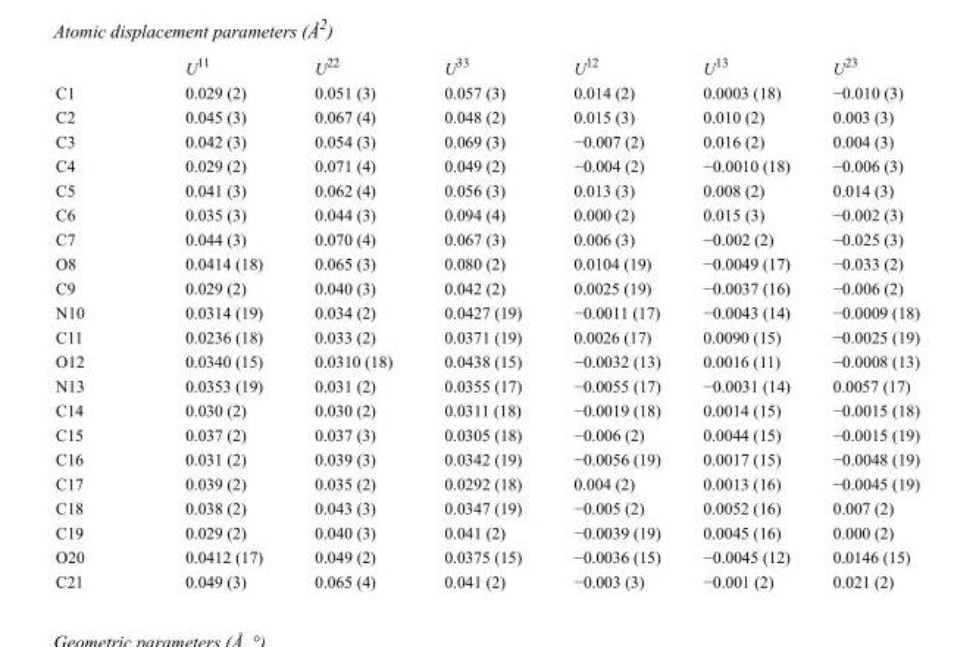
<table><thead><tr><td></td><td>U<sup>11</sup></td><td>U<sup>22</sup></td><td>U<sup>33</sup></td><td>U<sup>12</sup></td><td>U<sup>13</sup></td><td>U<sup>23</sup></td></tr></thead><tbody><tr><td>C1</td><td>0.029 (2)</td><td>0.051 (3)</td><td>0.057 (3)</td><td>0.014 (2)</td><td>0.0003 (18)</td><td>−0.010 (3)</td></tr><tr><td>C2</td><td>0.045 (3)</td><td>0.067 (4)</td><td>0.048 (2)</td><td>0.015 (3)</td><td>0.010 (2)</td><td>0.003 (3)</td></tr><tr><td>C3</td><td>0.042 (3)</td><td>0.054 (3)</td><td>0.069 (3)</td><td>−0.007 (2)</td><td>0.016 (2)</td><td>0.004 (3)</td></tr><tr><td>C4</td><td>0.029 (2)</td><td>0.071 (4)</td><td>0.049 (2)</td><td>−0.004 (2)</td><td>−0.0010 (18)</td><td>−0.006 (3)</td></tr><tr><td>C5</td><td>0.041 (3)</td><td>0.062 (4)</td><td>0.056 (3)</td><td>0.013 (3)</td><td>0.008 (2)</td><td>0.014 (3)</td></tr><tr><td>C6</td><td>0.035 (3)</td><td>0.044 (3)</td><td>0.094 (4)</td><td>0.000 (2)</td><td>0.015 (3)</td><td>−0.002 (3)</td></tr><tr><td>C7</td><td>0.044 (3)</td><td>0.070 (4)</td><td>0.067 (3)</td><td>0.006 (3)</td><td>−0.002 (2)</td><td>−0.025 (3)</td></tr><tr><td>O8</td><td>0.0414 (18)</td><td>0.065 (3)</td><td>0.080 (2)</td><td>0.0104 (19)</td><td>−0.0049 (17)</td><td>−0.033 (2)</td></tr><tr><td>C9</td><td>0.029 (2)</td><td>0.040 (3)</td><td>0.042 (2)</td><td>0.0025 (19)</td><td>−0.0037 (16)</td><td>−0.006 (2)</td></tr><tr><td>N10</td><td>0.0314 (19)</td><td>0.034 (2)</td><td>0.0427 (19)</td><td>−0.0011 (17)</td><td>−0.0043 (14)</td><td>−0.0009 (18)</td></tr><tr><td>C11</td><td>0.0236 (18)</td><td>0.033 (2)</td><td>0.0371 (19)</td><td>0.0026 (17)</td><td>0.0090 (15)</td><td>−0.0025 (19)</td></tr><tr><td>O12</td><td>0.0340 (15)</td><td>0.0310 (18)</td><td>0.0438 (15)</td><td>−0.0032 (13)</td><td>0.0016 (11)</td><td>−0.0008 (13)</td></tr><tr><td>N13</td><td>0.0353 (19)</td><td>0.031 (2)</td><td>0.0355 (17)</td><td>−0.0055 (17)</td><td>−0.0031 (14)</td><td>0.0057 (17)</td></tr><tr><td>C14</td><td>0.030 (2)</td><td>0.030 (2)</td><td>0.0311 (18)</td><td>−0.0019 (18)</td><td>0.0014 (15)</td><td>−0.0015 (18)</td></tr><tr><td>C15</td><td>0.037 (2)</td><td>0.037 (3)</td><td>0.0305 (18)</td><td>−0.006 (2)</td><td>0.0044 (15)</td><td>−0.0015 (19)</td></tr><tr><td>C16</td><td>0.031 (2)</td><td>0.039 (3)</td><td>0.0342 (19)</td><td>−0.0056 (19)</td><td>0.0017 (15)</td><td>−0.0048 (19)</td></tr><tr><td>C17</td><td>0.039 (2)</td><td>0.035 (2)</td><td>0.0292 (18)</td><td>0.004 (2)</td><td>0.0013 (16)</td><td>−0.0045 (19)</td></tr><tr><td>C18</td><td>0.038 (2)</td><td>0.043 (3)</td><td>0.0347 (19)</td><td>−0.005 (2)</td><td>0.0052 (16)</td><td>0.007 (2)</td></tr><tr><td>C19</td><td>0.029 (2)</td><td>0.040 (3)</td><td>0.041 (2)</td><td>−0.0039 (19)</td><td>0.0045 (16)</td><td>0.000 (2)</td></tr><tr><td>O20</td><td>0.0412 (17)</td><td>0.049 (2)</td><td>0.0375 (15)</td><td>−0.0036 (15)</td><td>−0.0045 (12)</td><td>0.0146 (15)</td></tr><tr><td>C21</td><td>0.049 (3)</td><td>0.065 (4)</td><td>0.041 (2)</td><td>−0.003 (3)</td><td>−0.001 (2)</td><td>0.021 (2)</td></tr></tbody></table>